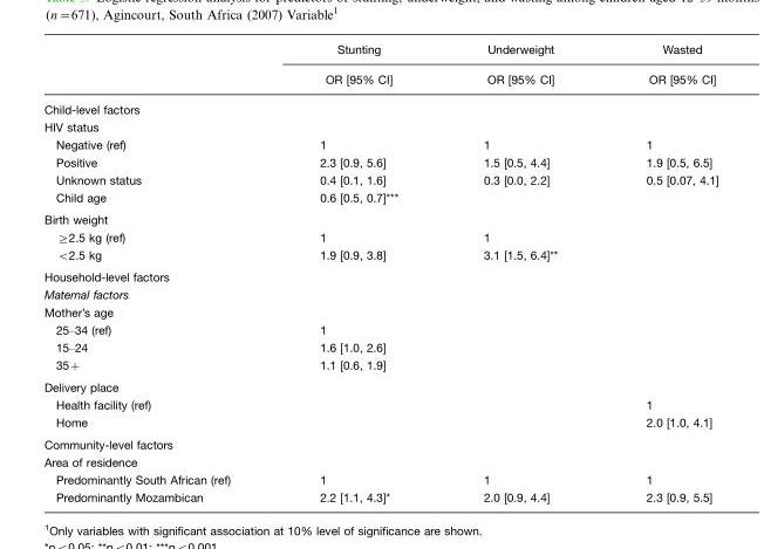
<table><thead><tr><td rowspan="2"></td><td rowspan="2">Stunting OR [95% CI]</td><td rowspan="2">Underweight OR [95% CI]</td><td rowspan="2">Wasted OR [95% CI]</td></tr><tr></tr></thead><tbody><tr><td colspan="4">Child-level factors</td></tr><tr><td colspan="4">HIV status</td></tr><tr><td>Negative (ref)</td><td>1</td><td>1</td><td>1</td></tr><tr><td>Positive</td><td>2.3 [0.9, 5.6]</td><td>1.5 [0.5, 4.4]</td><td>1.9 [0.5, 6.5]</td></tr><tr><td>Unknown status</td><td>0.4 [0.1, 1.6]</td><td>0.3 [0.0, 2.2]</td><td>0.5 [0.07, 4.1]</td></tr><tr><td>Child age</td><td>0.6 [0.5, 0.7]***</td><td></td><td></td></tr><tr><td colspan="4">Birth weight</td></tr><tr><td>≥2.5 kg (ref)</td><td>1</td><td>1</td><td></td></tr><tr><td>&lt;2.5 kg</td><td>1.9 [0.9, 3.8]</td><td>3.1 [1.5, 6.4]**</td><td></td></tr><tr><td colspan="4">Household-level factors</td></tr><tr><td colspan="4">Maternal factors</td></tr><tr><td colspan="4">Mother’s age</td></tr><tr><td>25–34 (ref)</td><td>1</td><td></td><td></td></tr><tr><td>15–24</td><td>1.6 [1.0, 2.6]</td><td></td><td></td></tr><tr><td>35+</td><td>1.1 [0.6, 1.9]</td><td></td><td></td></tr><tr><td colspan="4">Delivery place</td></tr><tr><td>Health facility (ref)</td><td></td><td></td><td>1</td></tr><tr><td>Home</td><td></td><td></td><td>2.0 [1.0, 4.1]</td></tr><tr><td colspan="4">Community-level factors</td></tr><tr><td colspan="4">Area of residence</td></tr><tr><td>Predominantly South African (ref)</td><td>1</td><td>1</td><td>1</td></tr><tr><td>Predominantly Mozambican</td><td>2.2 [1.1, 4.3]*</td><td>2.0 [0.9, 4.4]</td><td>2.3 [0.9, 5.5]</td></tr></tbody></table>